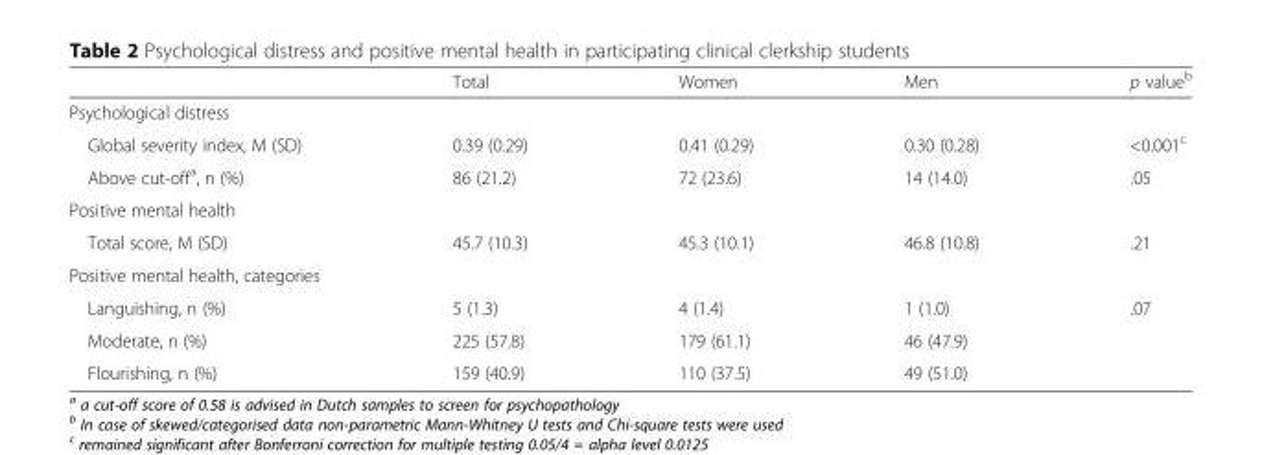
<table><thead><tr><td></td><td>Total</td><td>Women</td><td>Men</td><td>p value<sup>b</sup></td></tr></thead><tbody><tr><td colspan="5">Psychological distress</td></tr><tr><td>Global severity index, M (SD)</td><td>0.39 (0.29)</td><td>0.41 (0.29)</td><td>0.30 (0.28)</td><td>&lt;0.001<sup>c</sup></td></tr><tr><td>Above cut-off<sup>a</sup>, n (%)</td><td>86 (21.2)</td><td>72 (23.6)</td><td>14 (14.0)</td><td>.05</td></tr><tr><td colspan="5">Positive mental health</td></tr><tr><td>Total score, M (SD)</td><td>45.7 (10.3)</td><td>45.3 (10.1)</td><td>46.8 (10.8)</td><td>.21</td></tr><tr><td colspan="5">Positive mental health, categories</td></tr><tr><td>Languishing, n (%)</td><td>5 (1.3)</td><td>4 (1.4)</td><td>1 (1.0)</td><td rowspan="3">.07</td></tr><tr><td>Moderate, n (%)</td><td>225 (57.8)</td><td>179 (61.1)</td><td>46 (47.9)</td></tr><tr><td>Flourishing, n (%)</td><td>159 (40.9)</td><td>110 (37.5)</td><td>49 (51.0)</td></tr></tbody></table>